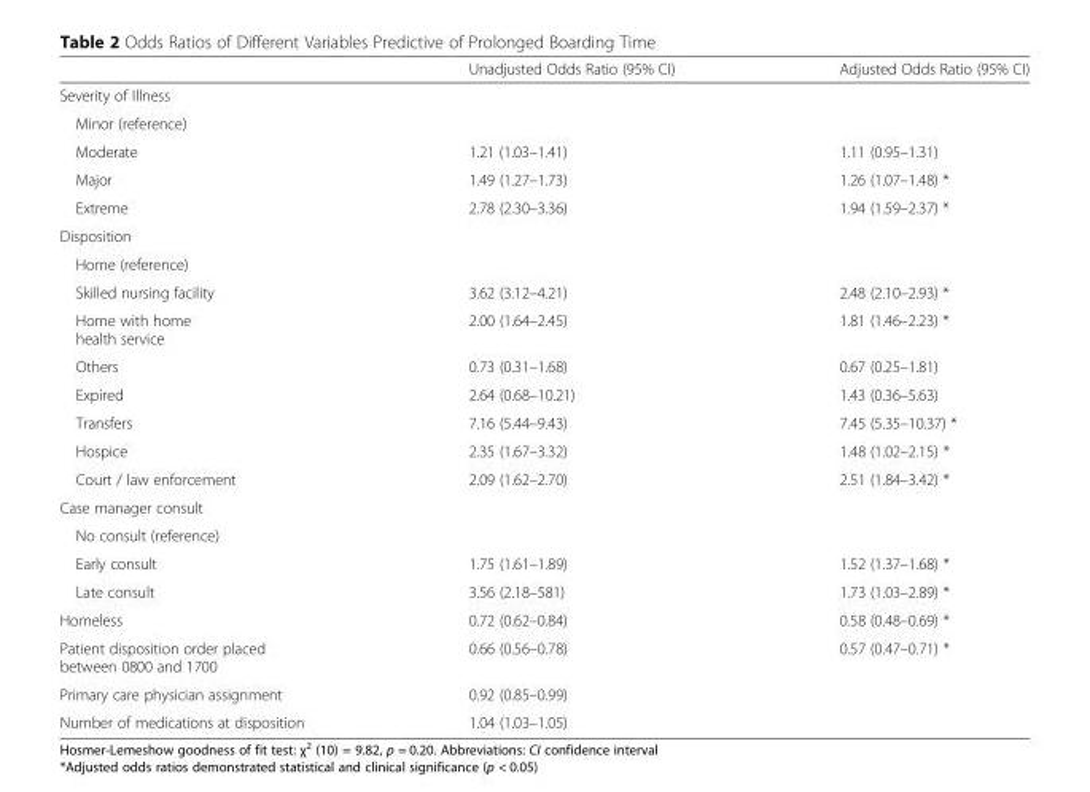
<table><thead><tr><td></td><td>Unadjusted Odds Ratio (95% CI)</td><td>Adjusted Odds Ratio (95% CI)</td></tr></thead><tbody><tr><td colspan="3">Severity of Illness</td></tr><tr><td colspan="3">Minor (reference)</td></tr><tr><td>Moderate</td><td>1.21 (1.03–1.41)</td><td>1.11 (0.95–1.31)</td></tr><tr><td>Major</td><td>1.49 (1.27–1.73)</td><td>1.26 (1.07–1.48) *</td></tr><tr><td>Extreme</td><td>2.78 (2.30–3.36)</td><td>1.94 (1.59–2.37) *</td></tr><tr><td colspan="3">Disposition</td></tr><tr><td colspan="3">Home (reference)</td></tr><tr><td>Skilled nursing facility</td><td>3.62 (3.12–4.21)</td><td>2.48 (2.10–2.93) *</td></tr><tr><td>Home with home health service</td><td>2.00 (1.64–2.45)</td><td>1.81 (1.46–2.23) *</td></tr><tr><td>Others</td><td>0.73 (0.31–1.68)</td><td>0.67 (0.25–1.81)</td></tr><tr><td>Expired</td><td>2.64 (0.68–10.21)</td><td>1.43 (0.36–5.63)</td></tr><tr><td>Transfers</td><td>7.16 (5.44–9.43)</td><td>7.45 (5.35–10.37) *</td></tr><tr><td>Hospice</td><td>2.35 (1.67–3.32)</td><td>1.48 (1.02–2.15) *</td></tr><tr><td>Court / law enforcement</td><td>2.09 (1.62–2.70)</td><td>2.51 (1.84–3.42) *</td></tr><tr><td colspan="3">Case manager consult</td></tr><tr><td colspan="3">No consult (reference)</td></tr><tr><td>Early consult</td><td>1.75 (1.61–1.89)</td><td>1.52 (1.37–1.68) *</td></tr><tr><td>Late consult</td><td>3.56 (2.18–581)</td><td>1.73 (1.03–2.89) *</td></tr><tr><td>Homeless</td><td>0.72 (0.62–0.84)</td><td>0.58 (0.48–0.69) *</td></tr><tr><td>Patient disposition order placed between 0800 and 1700</td><td>0.66 (0.56–0.78)</td><td>0.57 (0.47–0.71) *</td></tr><tr><td>Primary care physician assignment</td><td>0.92 (0.85–0.99)</td><td></td></tr><tr><td>Number of medications at disposition</td><td>1.04 (1.03–1.05)</td><td></td></tr></tbody></table>